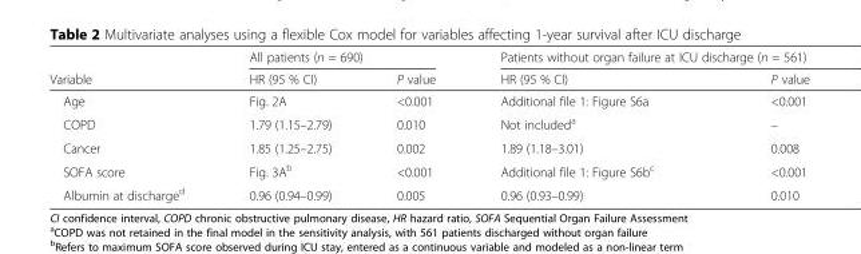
<table><thead><tr><td rowspan="2">Variable</td><td colspan="2">All patients (n = 690)</td><td colspan="2">Patients without organ failure at ICU discharge (n = 561)</td></tr><tr><td>HR (95 % CI)</td><td>P value</td><td>HR (95 % CI)</td><td>P value</td></tr></thead><tbody><tr><td>Age</td><td>Fig. 2A</td><td>&lt;0.001</td><td>Additional file 1: Figure S6a</td><td>&lt;0.001</td></tr><tr><td>COPD</td><td>1.79 (1.15–2.79)</td><td>0.010</td><td>Not included<sup>a</sup></td><td>–</td></tr><tr><td>Cancer</td><td>1.85 (1.25–2.75)</td><td>0.002</td><td>1.89 (1.18–3.01)</td><td>0.008</td></tr><tr><td>SOFA score</td><td>Fig. 3A<sup>b</sup></td><td>&lt;0.001</td><td>Additional file 1: Figure S6b<sup>c</sup></td><td>&lt;0.001</td></tr><tr><td>Albumin at discharge<sup>d</sup></td><td>0.96 (0.94–0.99)</td><td>0.005</td><td>0.96 (0.93–0.99)</td><td>0.010</td></tr></tbody></table>